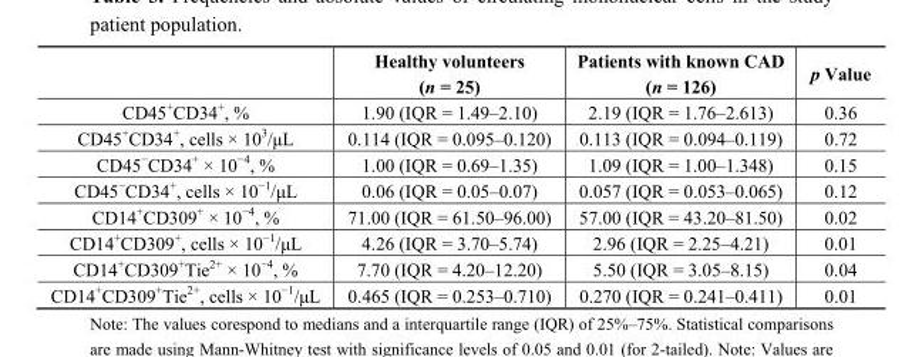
<table><thead><tr><td></td><td>Healthy volunteers (n = 25)</td><td>Patients with known CAD (n = 126)</td><td>p Value</td></tr></thead><tbody><tr><td>CD45<sup>+</sup>CD34<sup>+</sup>, %</td><td>1.90 (IQR = 1.49–2.10)</td><td>2.19 (IQR = 1.76–2.613)</td><td>0.36</td></tr><tr><td>CD45<sup>+</sup>CD34<sup>+</sup>, cells × 10<sup>3</sup>/μL</td><td>0.114 (IQR = 0.095–0.120)</td><td>0.113 (IQR = 0.094–0.119)</td><td>0.72</td></tr><tr><td>CD45<sup>−</sup>CD34<sup>+</sup> × 10<sup>−4</sup>, %</td><td>1.00 (IQR = 0.69–1.35)</td><td>1.09 (IQR = 1.00–1.348)</td><td>0.15</td></tr><tr><td>CD45<sup>−</sup>CD34<sup>+</sup>, cells × 10<sup>−1</sup>/μL</td><td>0.06 (IQR = 0.05–0.07)</td><td>0.057 (IQR = 0.053–0.065)</td><td>0.12</td></tr><tr><td>CD14<sup>+</sup>CD309<sup>+</sup> × 10<sup>−4</sup>, %</td><td>71.00 (IQR = 61.50–96.00)</td><td>57.00 (IQR = 43.20–81.50)</td><td>0.02</td></tr><tr><td>CD14<sup>+</sup>CD309<sup>+</sup>, cells × 10<sup>−1</sup>/μL</td><td>4.26 (IQR = 3.70–5.74)</td><td>2.96 (IQR = 2.25–4.21)</td><td>0.01</td></tr><tr><td>CD14<sup>+</sup>CD309<sup>+</sup>Tie<sup>2+</sup> × 10<sup>−4</sup>, %</td><td>7.70 (IQR = 4.20–12.20)</td><td>5.50 (IQR = 3.05–8.15)</td><td>0.04</td></tr><tr><td>CD14<sup>+</sup>CD309<sup>+</sup>Tie<sup>2+</sup>, cells × 10<sup>−1</sup>/μL</td><td>0.465 (IQR = 0.253–0.710)</td><td>0.270 (IQR = 0.241–0.411)</td><td>0.01</td></tr></tbody></table>